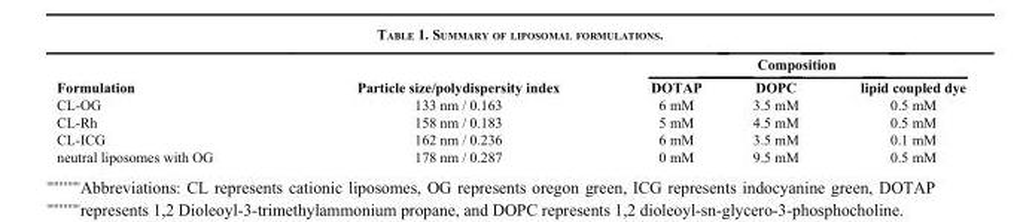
<table><thead><tr><td rowspan="2">Formulation</td><td rowspan="2">Particle size/polydispersity index</td><td colspan="3">Composition</td></tr><tr><td>DOTAP</td><td>DOPC</td><td>lipid coupled dye</td></tr></thead><tbody><tr><td>CL-OG</td><td>133 nm / 0.163</td><td>6 mM</td><td>3.5 mM</td><td>0.5 mM</td></tr><tr><td>CL-Rh</td><td>158 nm / 0.183</td><td>5 mM</td><td>4.5 mM</td><td>0.5 mM</td></tr><tr><td>CL-ICG</td><td>162 nm / 0.236</td><td>6 mM</td><td>3.5 mM</td><td>0.1 mM</td></tr><tr><td>neutral liposomes with OG</td><td>178 nm / 0.287</td><td>0 mM</td><td>9.5 mM</td><td>0.5 mM</td></tr></tbody></table>